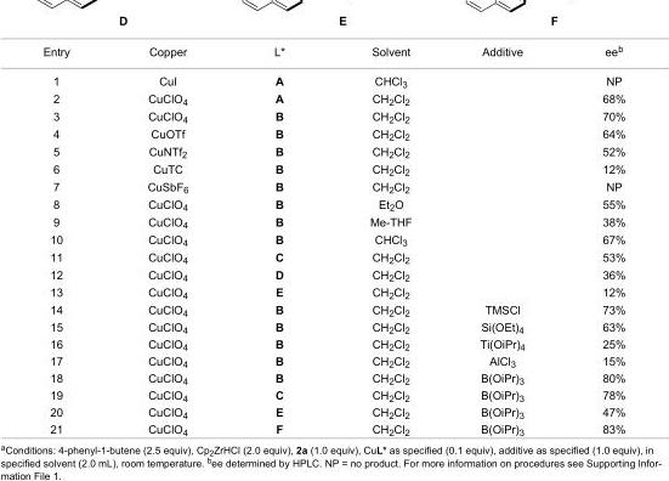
<table><tbody><tr><td>Entry</td><td>Copper</td><td>L*</td><td>Solvent</td><td>Additive</td><td>ee<sup>b</sup></td></tr><tr><td>1</td><td>CuI</td><td>A</td><td>CHCl<sub>3</sub></td><td></td><td>NP</td></tr><tr><td>2</td><td>CuClO<sub>4</sub></td><td>A</td><td>CH<sub>2</sub>Cl<sub>2</sub></td><td></td><td>68%</td></tr><tr><td>3</td><td>CuClO<sub>4</sub></td><td>B</td><td>CH<sub>2</sub>Cl<sub>2</sub></td><td></td><td>70%</td></tr><tr><td>4</td><td>CuOTf</td><td>B</td><td>CH<sub>2</sub>Cl<sub>2</sub></td><td></td><td>64%</td></tr><tr><td>5</td><td>CuNTf<sub>2</sub></td><td>B</td><td>CH<sub>2</sub>Cl<sub>2</sub></td><td></td><td>52%</td></tr><tr><td>6</td><td>CuTC</td><td>B</td><td>CH<sub>2</sub>Cl<sub>2</sub></td><td></td><td>12%</td></tr><tr><td>7</td><td>CuSbF<sub>6</sub></td><td>B</td><td>CH<sub>2</sub>Cl<sub>2</sub></td><td></td><td>NP</td></tr><tr><td>8</td><td>CuClO<sub>4</sub></td><td>B</td><td>Et<sub>2</sub>O</td><td></td><td>55%</td></tr><tr><td>9</td><td>CuClO<sub>4</sub></td><td>B</td><td>Me-THF</td><td></td><td>38%</td></tr><tr><td>10</td><td>CuClO<sub>4</sub></td><td>B</td><td>CHCl<sub>3</sub></td><td></td><td>67%</td></tr><tr><td>11</td><td>CuClO<sub>4</sub></td><td>C</td><td>CH<sub>2</sub>Cl<sub>2</sub></td><td></td><td>53%</td></tr><tr><td>12</td><td>CuClO<sub>4</sub></td><td>D</td><td>CH<sub>2</sub>Cl<sub>2</sub></td><td></td><td>36%</td></tr><tr><td>13</td><td>CuClO<sub>4</sub></td><td>E</td><td>CH<sub>2</sub>Cl<sub>2</sub></td><td></td><td>12%</td></tr><tr><td>14</td><td>CuClO<sub>4</sub></td><td>B</td><td>CH<sub>2</sub>Cl<sub>2</sub></td><td>TMSCl</td><td>73%</td></tr><tr><td>15</td><td>CuClO<sub>4</sub></td><td>B</td><td>CH<sub>2</sub>Cl<sub>2</sub></td><td>Si(OEt)<sub>4</sub></td><td>63%</td></tr><tr><td>16</td><td>CuClO<sub>4</sub></td><td>B</td><td>CH<sub>2</sub>Cl<sub>2</sub></td><td>Ti(OiPr)<sub>4</sub></td><td>25%</td></tr><tr><td>17</td><td>CuClO<sub>4</sub></td><td>B</td><td>CH<sub>2</sub>Cl<sub>2</sub></td><td>AlCl<sub>3</sub></td><td>15%</td></tr><tr><td>18</td><td>CuClO<sub>4</sub></td><td>B</td><td>CH<sub>2</sub>Cl<sub>2</sub></td><td>B(OiPr)<sub>3</sub></td><td>80%</td></tr><tr><td>19</td><td>CuClO<sub>4</sub></td><td>C</td><td>CH<sub>2</sub>Cl<sub>2</sub></td><td>B(OiPr)<sub>3</sub></td><td>78%</td></tr><tr><td>20</td><td>CuClO<sub>4</sub></td><td>E</td><td>CH<sub>2</sub>Cl<sub>2</sub></td><td>B(OiPr)<sub>3</sub></td><td>47%</td></tr><tr><td>21</td><td>CuClO<sub>4</sub></td><td>F</td><td>CH<sub>2</sub>Cl<sub>2</sub></td><td>B(OiPr)<sub>3</sub></td><td>83%</td></tr></tbody></table>